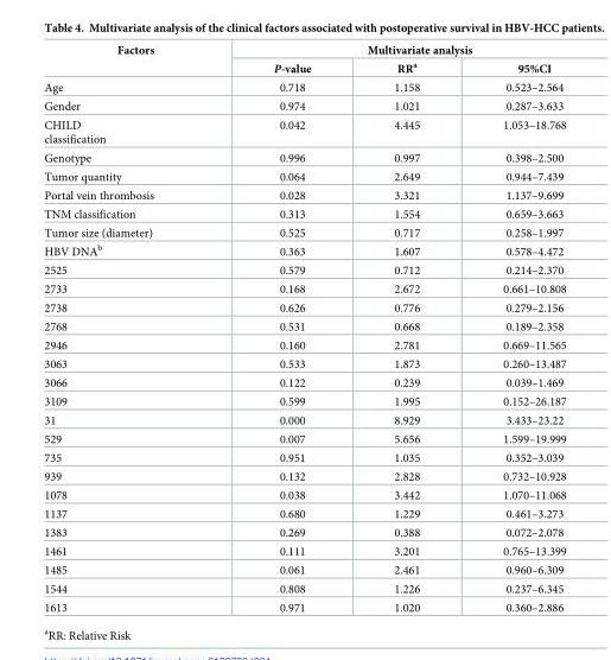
<table><thead><tr><td rowspan="2">Factors</td><td colspan="3">Multivariate analysis</td></tr><tr><td>P-value</td><td>RR<sup>a</sup></td><td>95%CI</td></tr></thead><tbody><tr><td>Age</td><td>0.718</td><td>1.158</td><td>0.523–2.564</td></tr><tr><td>Gender</td><td>0.974</td><td>1.021</td><td>0.287–3.633</td></tr><tr><td>CHILD classification</td><td>0.042</td><td>4.445</td><td>1.053–18.768</td></tr><tr><td>Genotype</td><td>0.996</td><td>0.997</td><td>0.398–2.500</td></tr><tr><td>Tumor quantity</td><td>0.064</td><td>2.649</td><td>0.944–7.439</td></tr><tr><td>Portal vein thrombosis</td><td>0.028</td><td>3.321</td><td>1.137–9.699</td></tr><tr><td>TNM classification</td><td>0.313</td><td>1.554</td><td>0.659–3.663</td></tr><tr><td>Tumor size (diameter)</td><td>0.525</td><td>0.717</td><td>0.258–1.997</td></tr><tr><td>HBV DNA<sup>b</sup></td><td>0.363</td><td>1.607</td><td>0.578–4.472</td></tr><tr><td>2525</td><td>0.579</td><td>0.712</td><td>0.214–2.370</td></tr><tr><td>2733</td><td>0.168</td><td>2.672</td><td>0.661–10.808</td></tr><tr><td>2738</td><td>0.626</td><td>0.776</td><td>0.279–2.156</td></tr><tr><td>2768</td><td>0.531</td><td>0.668</td><td>0.189–2.358</td></tr><tr><td>2946</td><td>0.160</td><td>2.781</td><td>0.669–11.565</td></tr><tr><td>3063</td><td>0.533</td><td>1.873</td><td>0.260–13.487</td></tr><tr><td>3066</td><td>0.122</td><td>0.239</td><td>0.039–1.469</td></tr><tr><td>3109</td><td>0.599</td><td>1.995</td><td>0.152–26.187</td></tr><tr><td>31</td><td>0.000</td><td>8.929</td><td>3.433–23.22</td></tr><tr><td>529</td><td>0.007</td><td>5.656</td><td>1.599–19.999</td></tr><tr><td>735</td><td>0.951</td><td>1.035</td><td>0.352–3.039</td></tr><tr><td>939</td><td>0.132</td><td>2.828</td><td>0.732–10.928</td></tr><tr><td>1078</td><td>0.038</td><td>3.442</td><td>1.070–11.068</td></tr><tr><td>1137</td><td>0.680</td><td>1.229</td><td>0.461–3.273</td></tr><tr><td>1383</td><td>0.269</td><td>0.388</td><td>0.072–2.078</td></tr><tr><td>1461</td><td>0.111</td><td>3.201</td><td>0.765–13.399</td></tr><tr><td>1485</td><td>0.061</td><td>2.461</td><td>0.960–6.309</td></tr><tr><td>1544</td><td>0.808</td><td>1.226</td><td>0.237–6.345</td></tr><tr><td>1613</td><td>0.971</td><td>1.020</td><td>0.360–2.886</td></tr></tbody></table>